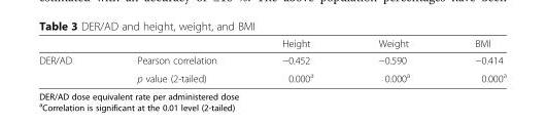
<table><thead><tr><td></td><td></td><td>Height</td><td>Weight</td><td>BMI</td></tr></thead><tbody><tr><td rowspan="2">DER/AD</td><td>Pearson correlation</td><td>−0.452</td><td>−0.590</td><td>−0.414</td></tr><tr><td>p value (2-tailed)</td><td>0.000<sup>a</sup></td><td>0.000<sup>a</sup></td><td>0.000<sup>a</sup></td></tr></tbody></table>